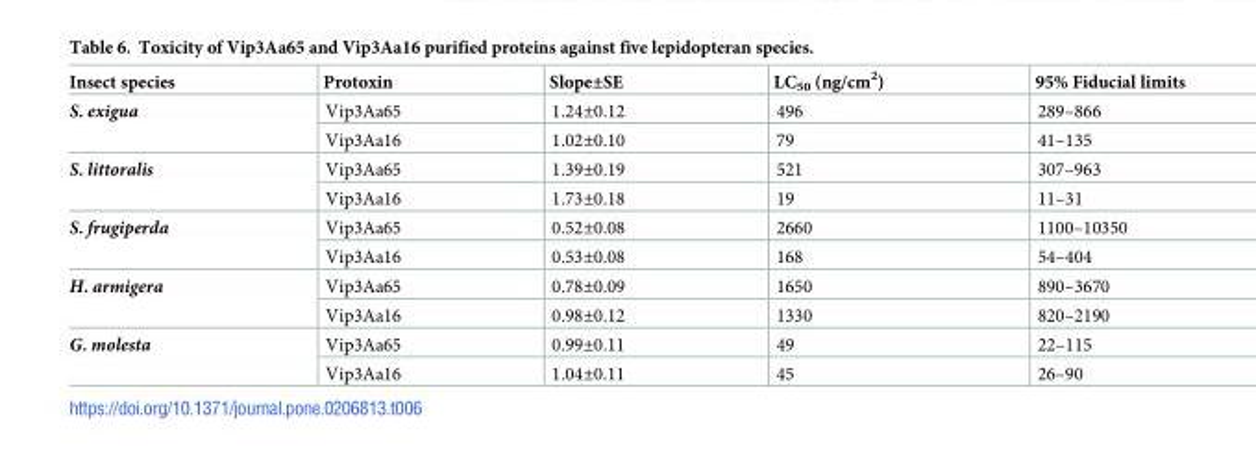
<table><thead><tr><td>Insect species</td><td>Protoxin</td><td>Slope±SE</td><td>LC<sub>50</sub> (ng/cm<sup>2</sup>)</td><td>95% Fiducial limits</td></tr></thead><tbody><tr><td rowspan="2">S. exigua</td><td>Vip3Aa65</td><td>1.24±0.12</td><td>496</td><td>289–866</td></tr><tr><td>Vip3Aa16</td><td>1.02±0.10</td><td>79</td><td>41–135</td></tr><tr><td rowspan="2">S. littoralis</td><td>Vip3Aa65</td><td>1.39±0.19</td><td>521</td><td>307–963</td></tr><tr><td>Vip3Aa16</td><td>1.73±0.18</td><td>19</td><td>11–31</td></tr><tr><td rowspan="2">S. frugiperda</td><td>Vip3Aa65</td><td>0.52±0.08</td><td>2660</td><td>1100–10350</td></tr><tr><td>Vip3Aa16</td><td>0.53±0.08</td><td>168</td><td>54–404</td></tr><tr><td rowspan="2">H. armigera</td><td>Vip3Aa65</td><td>0.78±0.09</td><td>1650</td><td>890–3670</td></tr><tr><td>Vip3Aa16</td><td>0.98±0.12</td><td>1330</td><td>820–2190</td></tr><tr><td rowspan="2">G. molesta</td><td>Vip3Aa65</td><td>0.99±0.11</td><td>49</td><td>22–115</td></tr><tr><td>Vip3Aa16</td><td>1.04±0.11</td><td>45</td><td>26–90</td></tr></tbody></table>